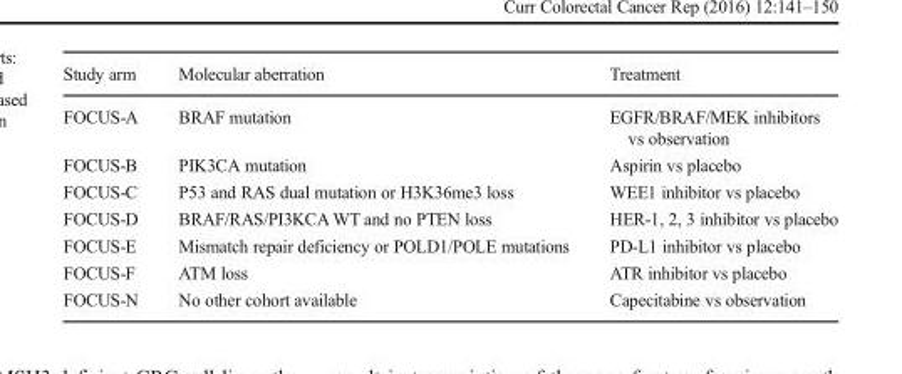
<table><thead><tr><td>Study arm</td><td>Molecular aberration</td><td>Treatment</td></tr></thead><tbody><tr><td>FOCUS-A</td><td>BRAF mutation</td><td>EGFR/BRAF/MEK inhibitors vs observation</td></tr><tr><td>FOCUS-B</td><td>PIK3CA mutation</td><td>Aspirin vs placebo</td></tr><tr><td>FOCUS-C</td><td>P53 and RAS dual mutation or H3K36me3 loss</td><td>WEE1 inhibitor vs placebo</td></tr><tr><td>FOCUS-D</td><td>BRAF/RAS/PI3KCA WT and no PTEN loss</td><td>HER-1, 2, 3 inhibitor vs placebo</td></tr><tr><td>FOCUS-E</td><td>Mismatch repair deficiency or POLD1/POLE mutations</td><td>PD-L1 inhibitor vs placebo</td></tr><tr><td>FOCUS-F</td><td>ATM loss</td><td>ATR inhibitor vs placebo</td></tr><tr><td>FOCUS-N</td><td>No other cohort available</td><td>Capecitabine vs observation</td></tr></tbody></table>